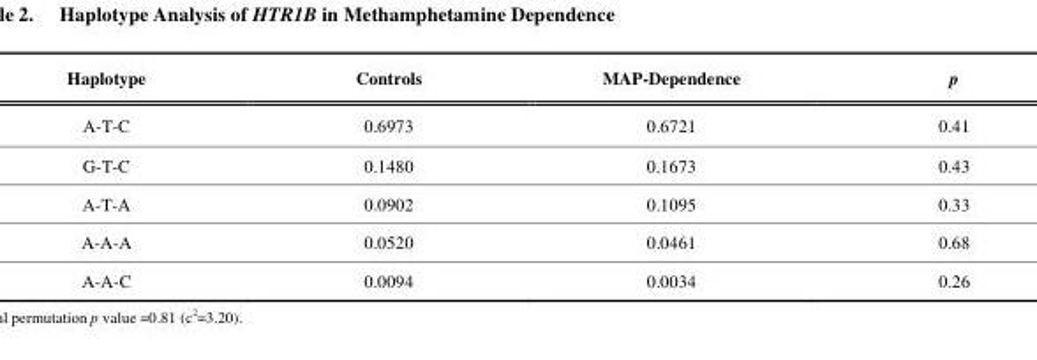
<table><thead><tr><td>Haplotype</td><td>Controls</td><td>MAP-Dependence</td><td>p</td></tr></thead><tbody><tr><td>A-T-C</td><td>0.6973</td><td>0.6721</td><td>0.41</td></tr><tr><td>G-T-C</td><td>0.1480</td><td>0.1673</td><td>0.43</td></tr><tr><td>A-T-A</td><td>0.0902</td><td>0.1095</td><td>0.33</td></tr><tr><td>A-A-A</td><td>0.0520</td><td>0.0461</td><td>0.68</td></tr><tr><td>A-A-C</td><td>0.0094</td><td>0.0034</td><td>0.26</td></tr></tbody></table>